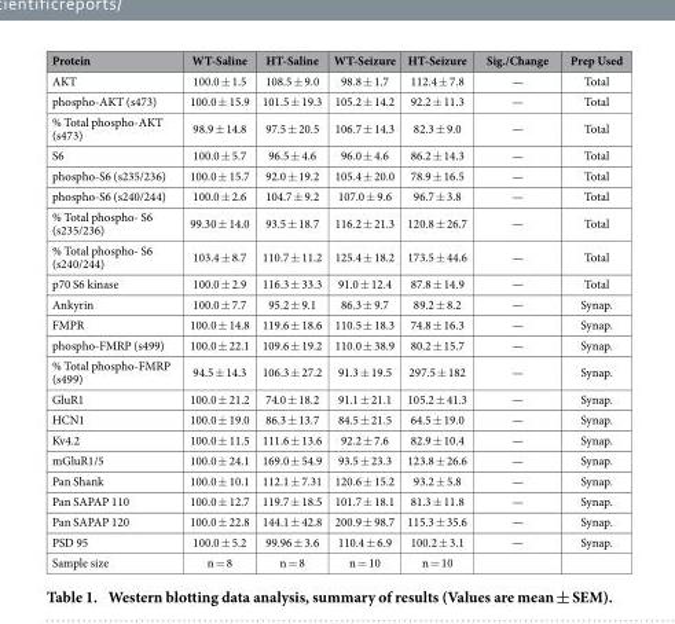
<table><thead><tr><td>Protein</td><td>WT-Saline</td><td>HT-Saline</td><td>WT-Seizure</td><td>HT-Seizure</td><td>Sig./Change</td><td>Prep Used</td></tr></thead><tbody><tr><td>AKT</td><td>100.0 ± 1.5</td><td>108.5 ± 9.0</td><td>98.8 ± 1.7</td><td>112.4 ± 7.8</td><td>—</td><td>Total</td></tr><tr><td>phospho-AKT (s473)</td><td>100.0 ± 15.9</td><td>101.5 ± 19.3</td><td>105.2 ± 14.2</td><td>92.2 ± 11.3</td><td>—</td><td>Total</td></tr><tr><td>% Total phospho-AKT (s473)</td><td>98.9 ± 14.8</td><td>97.5 ± 20.5</td><td>106.7 ± 14.3</td><td>82.3 ± 9.0</td><td>—</td><td>Total</td></tr><tr><td>S6</td><td>100.0 ± 5.7</td><td>96.5 ± 4.6</td><td>96.0 ± 4.6</td><td>86.2 ± 14.3</td><td>—</td><td>Total</td></tr><tr><td>phospho-S6 (s235/236)</td><td>100.0 ± 15.7</td><td>92.0 ± 19.2</td><td>105.4 ± 20.0</td><td>78.9 ± 16.5</td><td>—</td><td>Total</td></tr><tr><td>phospho-S6 (s240/244)</td><td>100.0 ± 2.6</td><td>104.7 ± 9.2</td><td>107.0 ± 9.6</td><td>96.7 ± 3.8</td><td>—</td><td>Total</td></tr><tr><td>% Total phospho- S6 (s235/236)</td><td>99.30 ± 14.0</td><td>93.5 ± 18.7</td><td>116.2 ± 21.3</td><td>120.8 ± 26.7</td><td>—</td><td>Total</td></tr><tr><td>% Total phospho- S6 (s240/244)</td><td>103.4 ± 8.7</td><td>110.7 ± 11.2</td><td>125.4 ± 18.2</td><td>173.5 ± 44.6</td><td>—</td><td>Total</td></tr><tr><td>p70 S6 kinase</td><td>100.0 ± 2.9</td><td>116.3 ± 33.3</td><td>91.0 ± 12.4</td><td>87.8 ± 14.9</td><td>—</td><td>Total</td></tr><tr><td>Ankyrin</td><td>100.0 ± 7.7</td><td>95.2 ± 9.1</td><td>86.3 ± 9.7</td><td>89.2 ± 8.2</td><td>—</td><td>Synap.</td></tr><tr><td>FMPR</td><td>100.0 ± 14.8</td><td>119.6 ± 18.6</td><td>110.5 ± 18.3</td><td>74.8 ± 16.3</td><td>—</td><td>Synap.</td></tr><tr><td>phospho-FMRP (s499)</td><td>100.0 ± 22.1</td><td>109.6 ± 19.2</td><td>110.0 ± 38.9</td><td>80.2 ± 15.7</td><td>—</td><td>Synap.</td></tr><tr><td>% Total phospho-FMRP (s499)</td><td>94.5 ± 14.3</td><td>106.3 ± 27.2</td><td>91.3 ± 19.5</td><td>297.5 ± 182</td><td>—</td><td>Synap.</td></tr><tr><td>GluR1</td><td>100.0 ± 21.2</td><td>74.0 ± 18.2</td><td>91.1 ± 21.1</td><td>105.2 ± 41.3</td><td>—</td><td>Synap.</td></tr><tr><td>HCN1</td><td>100.0 ± 19.0</td><td>86.3 ± 13.7</td><td>84.5 ± 21.5</td><td>64.5 ± 19.0</td><td>—</td><td>Synap.</td></tr><tr><td>Kv4.2</td><td>100.0 ± 11.5</td><td>111.6 ± 13.6</td><td>92.2 ± 7.6</td><td>82.9 ± 10.4</td><td>—</td><td>Synap.</td></tr><tr><td>mGluR1/5</td><td>100.0 ± 24.1</td><td>169.0 ± 54.9</td><td>93.5 ± 23.3</td><td>123.8 ± 26.6</td><td>—</td><td>Synap.</td></tr><tr><td>Pan Shank</td><td>100.0 ± 10.1</td><td>112.1 ± 7.31</td><td>120.6 ± 15.2</td><td>93.2 ± 5.8</td><td>—</td><td>Synap.</td></tr><tr><td>Pan SAPAP 110</td><td>100.0 ± 12.7</td><td>119.7 ± 18.5</td><td>101.7 ± 18.1</td><td>81.3 ± 11.8</td><td>—</td><td>Synap.</td></tr><tr><td>Pan SAPAP 120</td><td>100.0 ± 22.8</td><td>144.1 ± 42.8</td><td>200.9 ± 98.7</td><td>115.3 ± 35.6</td><td>—</td><td>Synap.</td></tr><tr><td>PSD 95</td><td>100.0 ± 5.2</td><td>99.96 ± 3.6</td><td>110.4 ± 6.9</td><td>100.2 ± 3.1</td><td>—</td><td>Synap.</td></tr><tr><td>Sample size</td><td>n = 8</td><td>n = 8</td><td>n = 10</td><td>n = 10</td><td></td><td></td></tr></tbody></table>